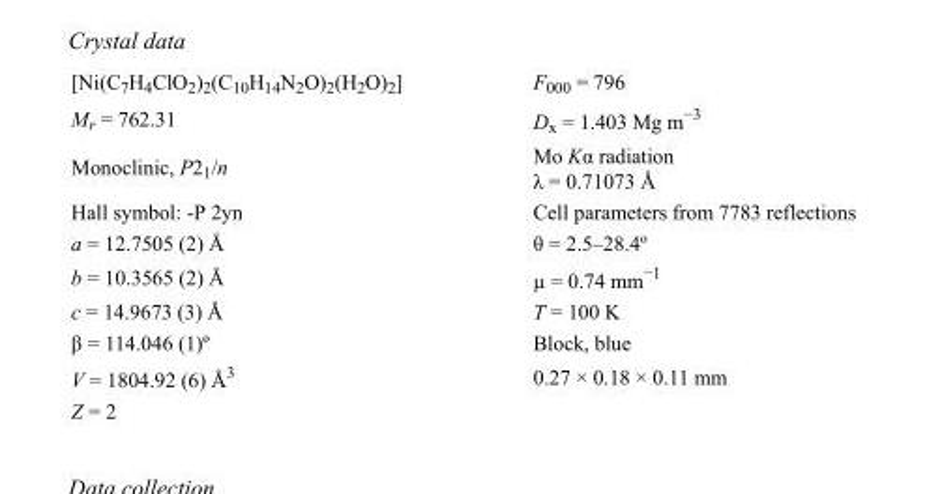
<table><tbody><tr><td>[Ni(C<sub>7</sub>H<sub>4</sub>ClO<sub>2</sub>)<sub>2</sub>(C<sub>10</sub>H<sub>14</sub>N<sub>2</sub>O)<sub>2</sub>(H<sub>2</sub>O)<sub>2</sub>]</td><td>F000 = 796</td></tr><tr><td>M<sub>r</sub> = 762.31</td><td>D<sub>x</sub> = 1.403 Mg m<sup>−3</sup></td></tr><tr><td>Monoclinic, P2<sub>1</sub>/n</td><td>Mo Kα radiation λ = 0.71073 Å</td></tr><tr><td>Hall symbol: -P 2yn</td><td>Cell parameters from 7783 reflections</td></tr><tr><td>a = 12.7505 (2) Å</td><td>θ = 2.5–28.4º</td></tr><tr><td>b = 10.3565 (2) Å</td><td>µ = 0.74 mm<sup>−1</sup></td></tr><tr><td>c = 14.9673 (3) Å</td><td>T = 100 K</td></tr><tr><td>β = 114.046 (1)º</td><td>Block, blue</td></tr><tr><td>V = 1804.92 (6) Å<sup>3</sup></td><td>0.27 × 0.18 × 0.11 mm</td></tr><tr><td>Z = 2</td><td></td></tr></tbody></table>